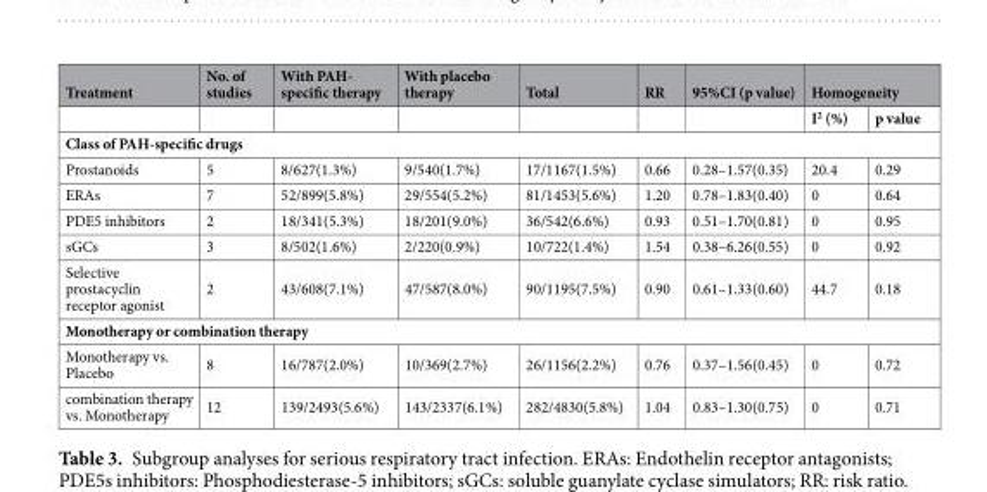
<table><thead><tr><td rowspan="2">Treatment</td><td rowspan="2">No. of studies</td><td rowspan="2">With PAH- specific therapy</td><td rowspan="2">With placebo therapy</td><td rowspan="2">Total</td><td rowspan="2">RR</td><td rowspan="2">95%CI (p value)</td><td colspan="2">Homogeneity</td></tr><tr><td>I<sup>2</sup> (%)</td><td>p value</td></tr></thead><tbody><tr><td colspan="9">Class of PAH-specific drugs</td></tr><tr><td>Prostanoids</td><td>5</td><td>8/627(1.3%)</td><td>9/540(1.7%)</td><td>17/1167(1.5%)</td><td>0.66</td><td>0.28–1.57(0.35)</td><td>20.4</td><td>0.29</td></tr><tr><td>ERAs</td><td>7</td><td>52/899(5.8%)</td><td>29/554(5.2%)</td><td>81/1453(5.6%)</td><td>1.20</td><td>0.78–1.83(0.40)</td><td>0</td><td>0.64</td></tr><tr><td>PDE5 inhibitors</td><td>2</td><td>18/341(5.3%)</td><td>18/201(9.0%)</td><td>36/542(6.6%)</td><td>0.93</td><td>0.51–1.70(0.81)</td><td>0</td><td>0.95</td></tr><tr><td>sGCs</td><td>3</td><td>8/502(1.6%)</td><td>2/220(0.9%)</td><td>10/722(1.4%)</td><td>1.54</td><td>0.38–6.26(0.55)</td><td>0</td><td>0.92</td></tr><tr><td>Selective prostacyclin receptor agonist</td><td>2</td><td>43/608(7.1%)</td><td>47/587(8.0%)</td><td>90/1195(7.5%)</td><td>0.90</td><td>0.61–1.33(0.60)</td><td>44.7</td><td>0.18</td></tr><tr><td colspan="9">Monotherapy or combination therapy</td></tr><tr><td>Monotherapy vs. Placebo</td><td>8</td><td>16/787(2.0%)</td><td>10/369(2.7%)</td><td>26/1156(2.2%)</td><td>0.76</td><td>0.37–1.56(0.45)</td><td>0</td><td>0.72</td></tr><tr><td>combination therapy vs. Monotherapy</td><td>12</td><td>139/2493(5.6%)</td><td>143/2337(6.1%)</td><td>282/4830(5.8%)</td><td>1.04</td><td>0.83–1.30(0.75)</td><td>0</td><td>0.71</td></tr></tbody></table>